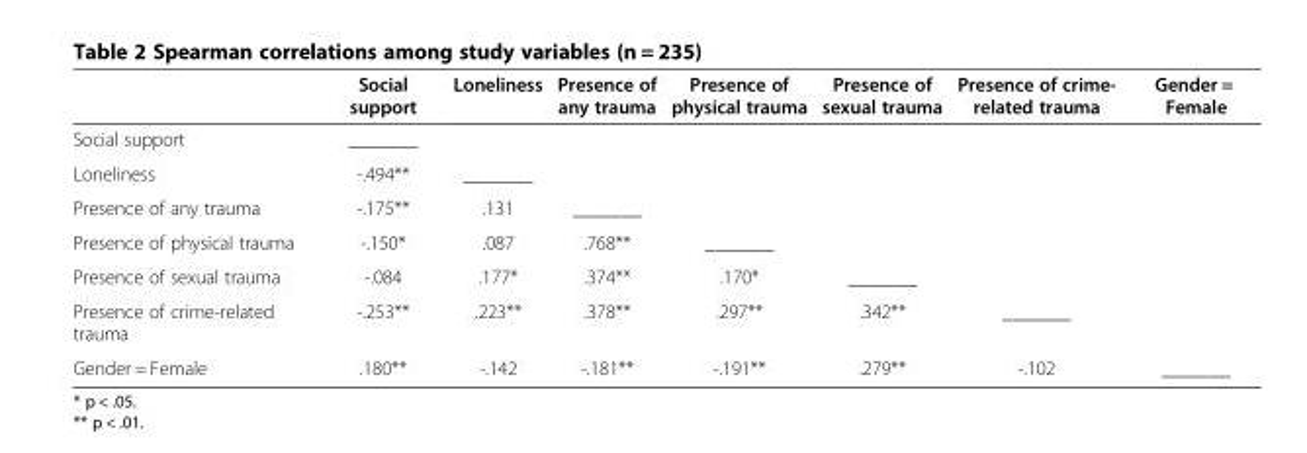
<table><thead><tr><td></td><td>Social support</td><td>Loneliness</td><td>Presence of any trauma</td><td>Presence of physical trauma</td><td>Presence of sexual trauma</td><td>Presence of crime- related trauma</td><td>Gender = Female</td></tr></thead><tbody><tr><td>Social support</td><td>_______</td><td></td><td></td><td></td><td></td><td></td><td></td></tr><tr><td>Loneliness</td><td>-.494**</td><td>_______</td><td></td><td></td><td></td><td></td><td></td></tr><tr><td>Presence of any trauma</td><td>-.175**</td><td>.131</td><td>_______</td><td></td><td></td><td></td><td></td></tr><tr><td>Presence of physical trauma</td><td>-.150*</td><td>.087</td><td>.768**</td><td>_______</td><td></td><td></td><td></td></tr><tr><td>Presence of sexual trauma</td><td>-.084</td><td>.177*</td><td>.374**</td><td>.170*</td><td>_______</td><td></td><td></td></tr><tr><td>Presence of crime-related trauma</td><td>-.253**</td><td>.223**</td><td>.378**</td><td>.297**</td><td>.342**</td><td>_______</td><td></td></tr><tr><td>Gender = Female</td><td>.180**</td><td>-.142</td><td>-.181**</td><td>-.191**</td><td>.279**</td><td>-.102</td><td>_______</td></tr></tbody></table>